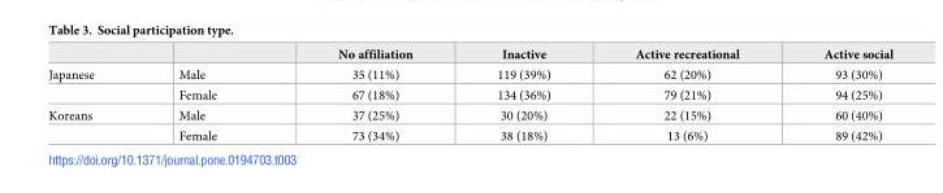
<table><thead><tr><td></td><td></td><td>No affiliation</td><td>Inactive</td><td>Active recreational</td><td>Active social</td></tr></thead><tbody><tr><td rowspan="2">Japanese</td><td>Male</td><td>35 (11%)</td><td>119 (39%)</td><td>62 (20%)</td><td>93 (30%)</td></tr><tr><td>Female</td><td>67 (18%)</td><td>134 (36%)</td><td>79 (21%)</td><td>94 (25%)</td></tr><tr><td rowspan="2">Koreans</td><td>Male</td><td>37 (25%)</td><td>30 (20%)</td><td>22 (15%)</td><td>60 (40%)</td></tr><tr><td>Female</td><td>73 (34%)</td><td>38 (18%)</td><td>13 (6%)</td><td>89 (42%)</td></tr></tbody></table>